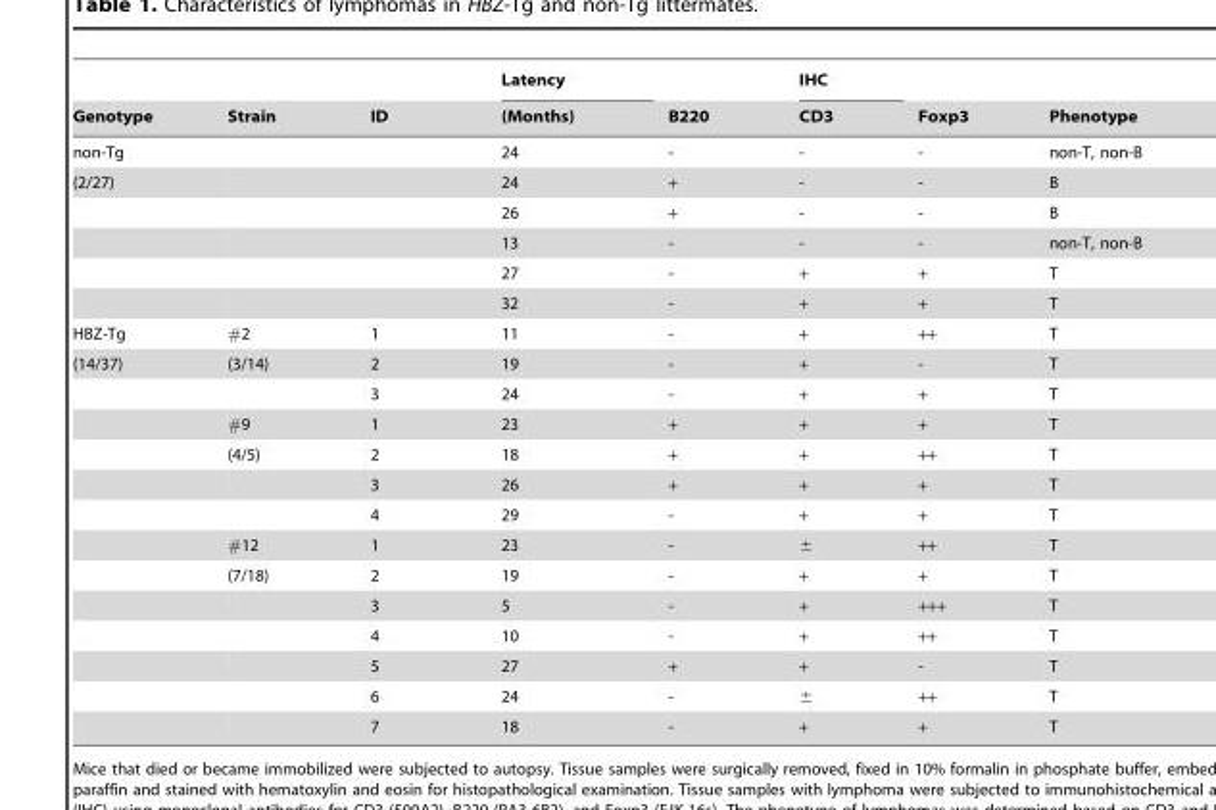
<table><thead><tr><td rowspan="2">Genotype</td><td rowspan="2">Strain</td><td rowspan="2">ID</td><td rowspan="2">Latency (Months)</td><td rowspan="2">B220</td><td rowspan="2">IHC CD3</td><td rowspan="2">Foxp3</td><td rowspan="2">Phenotype</td></tr><tr></tr></thead><tbody><tr><td>non-Tg</td><td></td><td></td><td>24</td><td>-</td><td>-</td><td>-</td><td>non-T, non-B</td></tr><tr><td rowspan="5">(2/27)</td><td></td><td></td><td>24</td><td>+</td><td>-</td><td>-</td><td>B</td></tr><tr><td></td><td></td><td>26</td><td>+</td><td>-</td><td>-</td><td>B</td></tr><tr><td></td><td></td><td>13</td><td>-</td><td>-</td><td>-</td><td>non-T, non-B</td></tr><tr><td></td><td></td><td>27</td><td>-</td><td>+</td><td>+</td><td>T</td></tr><tr><td></td><td></td><td>32</td><td>-</td><td>+</td><td>+</td><td>T</td></tr><tr><td>HBZ-Tg</td><td>#2</td><td>1</td><td>11</td><td>-</td><td>+</td><td>++</td><td>T</td></tr><tr><td rowspan="13">(14/37)</td><td>(3/14)</td><td>2</td><td>19</td><td>-</td><td>+</td><td>-</td><td>T</td></tr><tr><td></td><td>3</td><td>24</td><td>-</td><td>+</td><td>+</td><td>T</td></tr><tr><td>#9</td><td>1</td><td>23</td><td>+</td><td>+</td><td>+</td><td>T</td></tr><tr><td>(4/5)</td><td>2</td><td>18</td><td>+</td><td>+</td><td>++</td><td>T</td></tr><tr><td></td><td>3</td><td>26</td><td>+</td><td>+</td><td>+</td><td>T</td></tr><tr><td></td><td>4</td><td>29</td><td>-</td><td>+</td><td>+</td><td>T</td></tr><tr><td>#12</td><td>1</td><td>23</td><td>-</td><td>±</td><td>++</td><td>T</td></tr><tr><td>(7/18)</td><td>2</td><td>19</td><td>-</td><td>+</td><td>+</td><td>T</td></tr><tr><td></td><td>3</td><td>5</td><td>-</td><td>+</td><td>+++</td><td>T</td></tr><tr><td></td><td>4</td><td>10</td><td>-</td><td>+</td><td>++</td><td>T</td></tr><tr><td></td><td>5</td><td>27</td><td>+</td><td>+</td><td>-</td><td>T</td></tr><tr><td></td><td>6</td><td>24</td><td>-</td><td>±</td><td>++</td><td>T</td></tr><tr><td></td><td>7</td><td>18</td><td>-</td><td>+</td><td>+</td><td>T</td></tr></tbody></table>